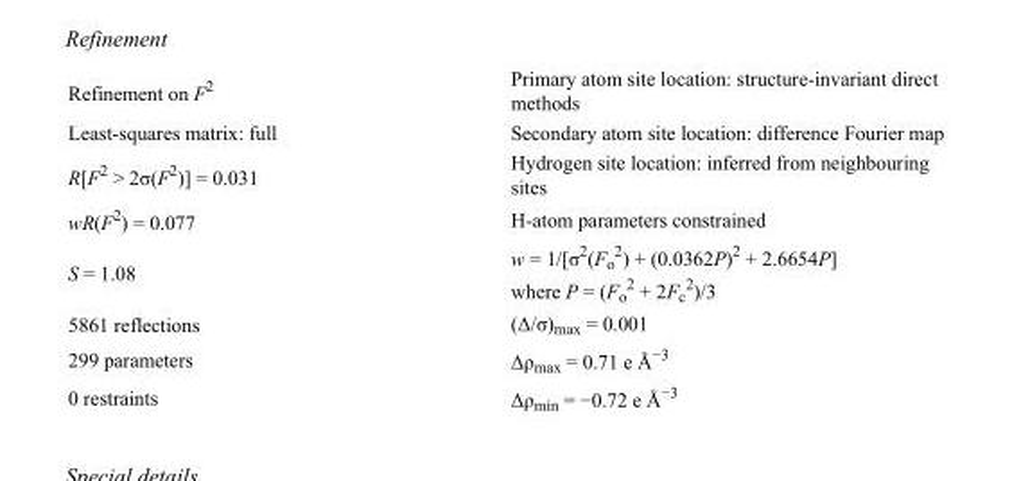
<table><tbody><tr><td>Refinement on F<sup>2</sup></td><td>Primary atom site location: structure-invariant direct methods</td></tr><tr><td>Least-squares matrix: full</td><td>Secondary atom site location: difference Fourier map</td></tr><tr><td>R[F<sup>2</sup> &gt; 2σ(F<sup>2</sup>)] = 0.031</td><td>Hydrogen site location: inferred from neighbouring sites</td></tr><tr><td>wR(F<sup>2</sup>) = 0.077</td><td>H-atom parameters constrained</td></tr><tr><td>S = 1.08</td><td>w = 1/[σ<sup>2</sup>(F<sub>o</sub> <sup>2</sup>) + (0.0362P)<sup>2</sup> + 2.6654P] where P = (F<sub>o</sub> <sup>2</sup> + 2F<sub>c</sub> <sup>2</sup>)/3</td></tr><tr><td>5861 reflections</td><td>(Δ/σ)<sub>max</sub> = 0.001</td></tr><tr><td>299 parameters</td><td>Δρ<sub>max</sub> = 0.71 e Å<sup>−3</sup></td></tr><tr><td>0 restraints</td><td>Δρ<sub>min</sub> = −0.72 e Å<sup>−3</sup></td></tr></tbody></table>